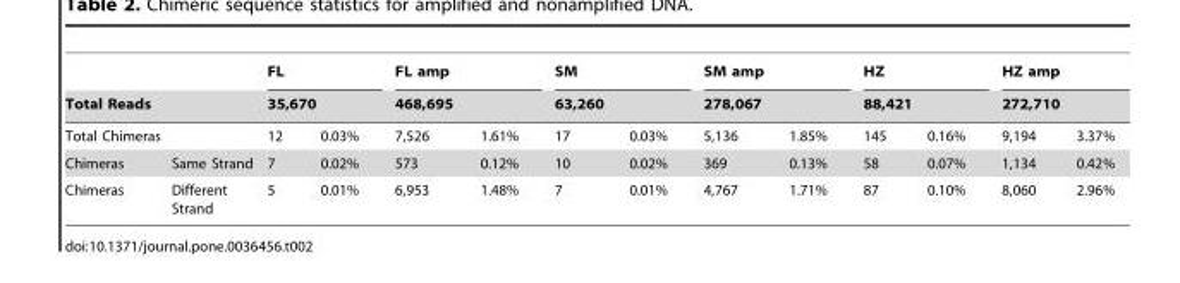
<table><thead><tr><td></td><td></td><td rowspan="2" colspan="2">FL 35,670</td><td rowspan="2" colspan="2">FL amp 468,695</td><td rowspan="2" colspan="2">SM 63,260</td><td rowspan="2" colspan="2">SM amp 278,067</td><td rowspan="2" colspan="2">HZ 88,421</td><td rowspan="2" colspan="2">HZ amp 272,710</td></tr><tr><td rowspan="2" colspan="2">Total Reads Total Chimeras</td></tr><tr><td>12</td><td>0.03%</td><td>7,526</td><td>1.61%</td><td>17</td><td>0.03%</td><td>5,136</td><td>1.85%</td><td>145</td><td>0.16%</td><td>9,194</td><td>3.37%</td></tr></thead><tbody><tr><td>Chimeras</td><td>Same Strand</td><td>7</td><td>0.02%</td><td>573</td><td>0.12%</td><td>10</td><td>0.02%</td><td>369</td><td>0.13%</td><td>58</td><td>0.07%</td><td>1,134</td><td>0.42%</td></tr><tr><td>Chimeras</td><td>Different Strand</td><td>5</td><td>0.01%</td><td>6,953</td><td>1.48%</td><td>7</td><td>0.01%</td><td>4,767</td><td>1.71%</td><td>87</td><td>0.10%</td><td>8,060</td><td>2.96%</td></tr></tbody></table>